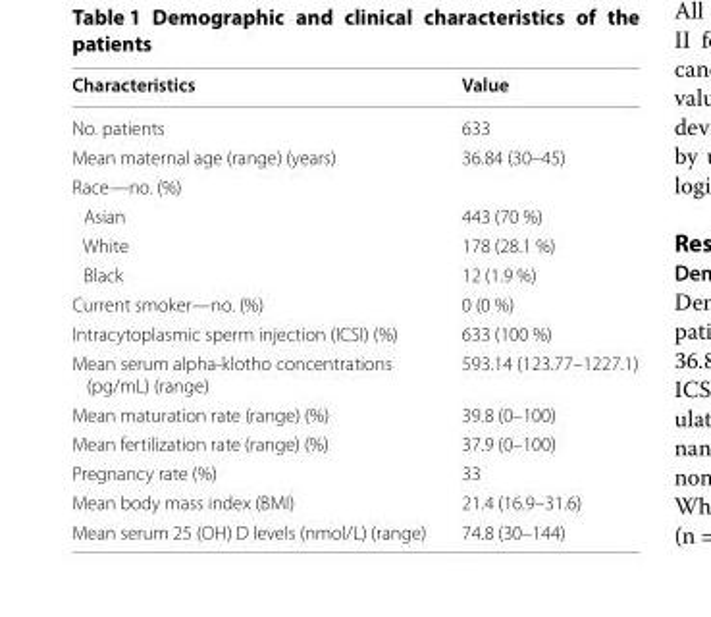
<table><thead><tr><td>Characteristics</td><td>Value</td></tr></thead><tbody><tr><td>No. patients</td><td>633</td></tr><tr><td>Mean maternal age (range) (years)</td><td>36.84 (30–45)</td></tr><tr><td colspan="2">Race—no. (%)</td></tr><tr><td>Asian</td><td>443 (70 %)</td></tr><tr><td>White</td><td>178 (28.1 %)</td></tr><tr><td>Black</td><td>12 (1.9 %)</td></tr><tr><td>Current smoker—no. (%)</td><td>0 (0 %)</td></tr><tr><td>Intracytoplasmic sperm injection (ICSI) (%)</td><td>633 (100 %)</td></tr><tr><td>Mean serum alpha-klotho concentrations (pg/mL) (range)</td><td>593.14 (123.77–1227.1)</td></tr><tr><td>Mean maturation rate (range) (%)</td><td>39.8 (0–100)</td></tr><tr><td>Mean fertilization rate (range) (%)</td><td>37.9 (0–100)</td></tr><tr><td>Pregnancy rate (%)</td><td>33</td></tr><tr><td>Mean body mass index (BMI)</td><td>21.4 (16.9–31.6)</td></tr><tr><td>Mean serum 25 (OH) D levels (nmol/L) (range)</td><td>74.8 (30–144)</td></tr></tbody></table>